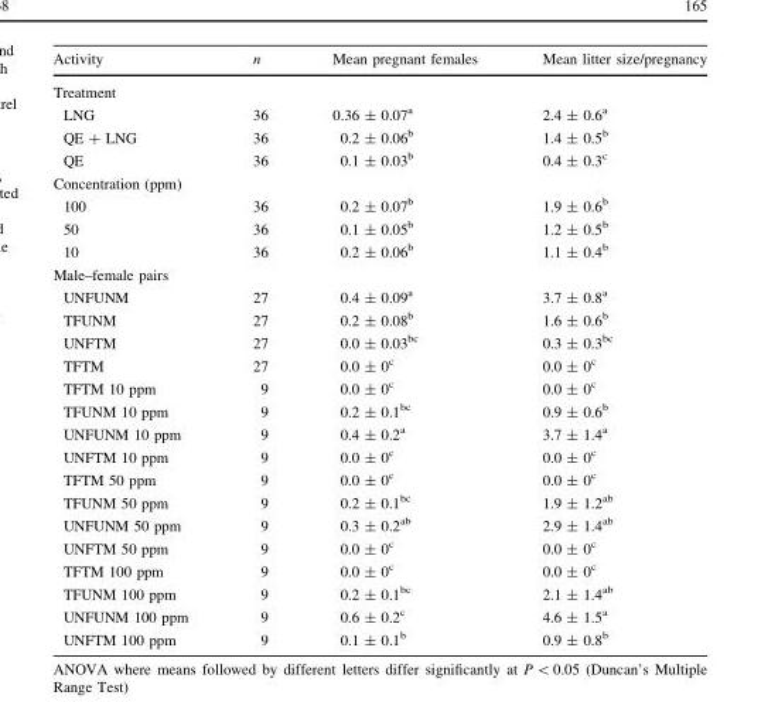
<table><thead><tr><td>Activity</td><td>n</td><td>Mean pregnant females</td><td>Mean litter size/pregnancy</td></tr></thead><tbody><tr><td colspan="4">Treatment</td></tr><tr><td>LNG</td><td>36</td><td>0.36 ± 0.07<sup>a</sup></td><td>2.4 ± 0.6<sup>a</sup></td></tr><tr><td>QE + LNG</td><td>36</td><td>0.2 ± 0.06<sup>b</sup></td><td>1.4 ± 0.5<sup>b</sup></td></tr><tr><td>QE</td><td>36</td><td>0.1 ± 0.03<sup>b</sup></td><td>0.4 ± 0.3<sup>c</sup></td></tr><tr><td colspan="4">Concentration (ppm)</td></tr><tr><td>100</td><td>36</td><td>0.2 ± 0.07<sup>b</sup></td><td>1.9 ± 0.6<sup>b</sup></td></tr><tr><td>50</td><td>36</td><td>0.1 ± 0.05<sup>b</sup></td><td>1.2 ± 0.5<sup>b</sup></td></tr><tr><td>10</td><td>36</td><td>0.2 ± 0.06<sup>b</sup></td><td>1.1 ± 0.4<sup>b</sup></td></tr><tr><td colspan="4">Male–female pairs</td></tr><tr><td>UNFUNM</td><td>27</td><td>0.4 ± 0.09<sup>a</sup></td><td>3.7 ± 0.8<sup>a</sup></td></tr><tr><td>TFUNM</td><td>27</td><td>0.2 ± 0.08<sup>b</sup></td><td>1.6 ± 0.6<sup>b</sup></td></tr><tr><td>UNFTM</td><td>27</td><td>0.0 ± 0.03<sup>bc</sup></td><td>0.3 ± 0.3<sup>bc</sup></td></tr><tr><td>TFTM</td><td>27</td><td>0.0 ± 0<sup>c</sup></td><td>0.0 ± 0<sup>c</sup></td></tr><tr><td>TFTM 10 ppm</td><td>9</td><td>0.0 ± 0<sup>c</sup></td><td>0.0 ± 0<sup>c</sup></td></tr><tr><td>TFUNM 10 ppm</td><td>9</td><td>0.2 ± 0.1<sup>bc</sup></td><td>0.9 ± 0.6<sup>b</sup></td></tr><tr><td>UNFUNM 10 ppm</td><td>9</td><td>0.4 ± 0.2<sup>a</sup></td><td>3.7 ± 1.4<sup>a</sup></td></tr><tr><td>UNFTM 10 ppm</td><td>9</td><td>0.0 ± 0<sup>c</sup></td><td>0.0 ± 0<sup>c</sup></td></tr><tr><td>TFTM 50 ppm</td><td>9</td><td>0.0 ± 0<sup>c</sup></td><td>0.0 ± 0<sup>c</sup></td></tr><tr><td>TFUNM 50 ppm</td><td>9</td><td>0.2 ± 0.1<sup>bc</sup></td><td>1.9 ± 1.2<sup>ab</sup></td></tr><tr><td>UNFUNM 50 ppm</td><td>9</td><td>0.3 ± 0.2<sup>ab</sup></td><td>2.9 ± 1.4<sup>ab</sup></td></tr><tr><td>UNFTM 50 ppm</td><td>9</td><td>0.0 ± 0<sup>c</sup></td><td>0.0 ± 0<sup>c</sup></td></tr><tr><td>TFTM 100 ppm</td><td>9</td><td>0.0 ± 0<sup>c</sup></td><td>0.0 ± 0<sup>c</sup></td></tr><tr><td>TFUNM 100 ppm</td><td>9</td><td>0.2 ± 0.1<sup>bc</sup></td><td>2.1 ± 1.4<sup>ab</sup></td></tr><tr><td>UNFUNM 100 ppm</td><td>9</td><td>0.6 ± 0.2<sup>c</sup></td><td>4.6 ± 1.5<sup>a</sup></td></tr><tr><td>UNFTM 100 ppm</td><td>9</td><td>0.1 ± 0.1<sup>b</sup></td><td>0.9 ± 0.8<sup>b</sup></td></tr></tbody></table>